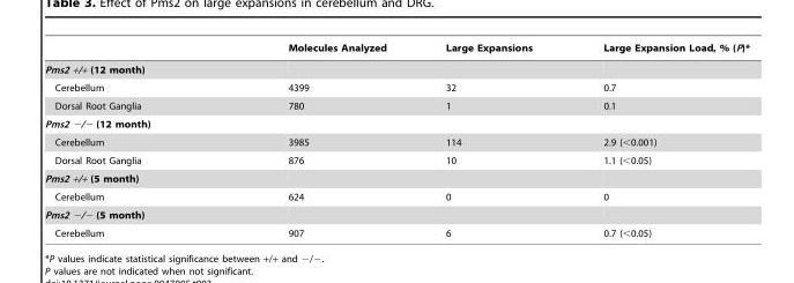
<table><thead><tr><td></td><td>Molecules Analyzed</td><td>Large Expansions</td><td>Large Expansion Load, % (P)*</td></tr></thead><tbody><tr><td colspan="4">Pms2 +/+ (12 month)</td></tr><tr><td>Cerebellum</td><td>4399</td><td>32</td><td>0.7</td></tr><tr><td>Dorsal Root Ganglia</td><td>780</td><td>1</td><td>0.1</td></tr><tr><td colspan="4">Pms2 −/− (12 month)</td></tr><tr><td>Cerebellum</td><td>3985</td><td>114</td><td>2.9 (&lt;0.001)</td></tr><tr><td>Dorsal Root Ganglia</td><td>876</td><td>10</td><td>1.1 (&lt;0.05)</td></tr><tr><td colspan="4">Pms2 +/+ (5 month)</td></tr><tr><td>Cerebellum</td><td>624</td><td>0</td><td>0</td></tr><tr><td colspan="4">Pms2 −/− (5 month)</td></tr><tr><td>Cerebellum</td><td>907</td><td>6</td><td>0.7 (&lt;0.05)</td></tr></tbody></table>